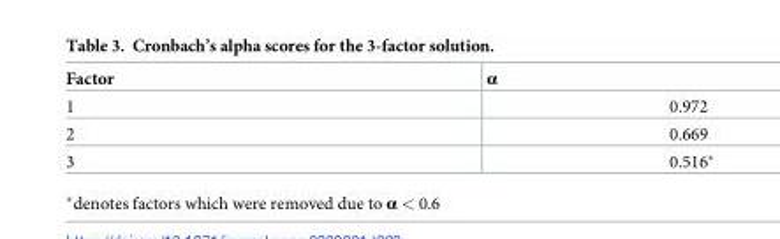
<table><thead><tr><td>Factor</td><td>α</td></tr></thead><tbody><tr><td>1</td><td>0.972</td></tr><tr><td>2</td><td>0.669</td></tr><tr><td>3</td><td>0.516*</td></tr></tbody></table>